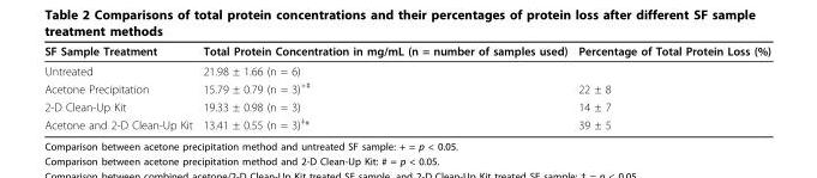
<table><thead><tr><td>SF Sample Treatment</td><td>Total Protein Concentration in mg/mL (n = number of samples used)</td><td>Percentage of Total Protein Loss (%)</td></tr></thead><tbody><tr><td>Untreated</td><td>21.98 ± 1.66 (n = 6)</td><td></td></tr><tr><td>Acetone Precipitation</td><td>15.79 ± 0.79 (n = 3)<sup>+#</sup></td><td>22 ± 8</td></tr><tr><td>2-D Clean-Up Kit</td><td>19.33 ± 0.98 (n = 3)</td><td>14 ± 7</td></tr><tr><td>Acetone and 2-D Clean-Up Kit</td><td>13.41 ± 0.55 (n = 3)<sup>‡</sup>*</td><td>39 ± 5</td></tr></tbody></table>